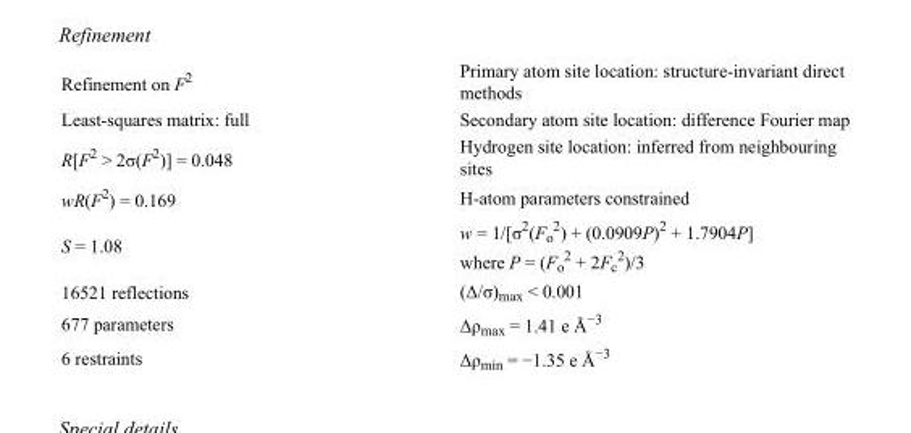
<table><tbody><tr><td>Refinement on F<sup>2</sup></td><td>Primary atom site location: structure-invariant direct methods</td></tr><tr><td>Least-squares matrix: full</td><td>Secondary atom site location: difference Fourier map</td></tr><tr><td>R[F<sup>2</sup> &gt; 2σ(F<sup>2</sup>)] = 0.048</td><td>Hydrogen site location: inferred from neighbouring sites</td></tr><tr><td>wR(F<sup>2</sup>) = 0.169</td><td>H-atom parameters constrained</td></tr><tr><td>S = 1.08</td><td>w = 1/[σ<sup>2</sup>(F<sub>o</sub> <sup>2</sup>) + (0.0909P)<sup>2</sup> + 1.7904P] where P = (F<sub>o</sub> <sup>2</sup> + 2F<sub>c</sub> <sup>2</sup>)/3</td></tr><tr><td>16521 reflections</td><td>(Δ/σ)<sub>max</sub> &lt; 0.001</td></tr><tr><td>677 parameters</td><td>Δρ<sub>max</sub> = 1.41 e Å<sup>−3</sup></td></tr><tr><td>6 restraints</td><td>Δρ<sub>min</sub> = −1.35 e Å<sup>−3</sup></td></tr></tbody></table>